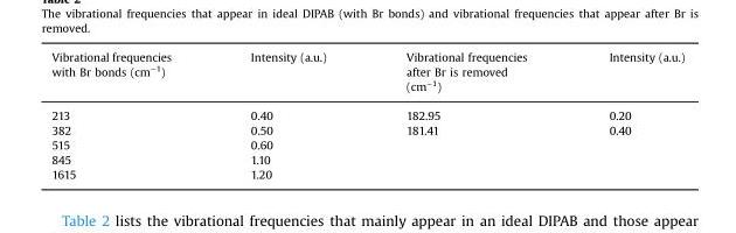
<table><thead><tr><td>Vibrational frequencies with Br bonds (cm<sup>−1</sup>)</td><td>Intensity (a.u.)</td><td>Vibrational frequencies after Br is removed (cm<sup>−1</sup>)</td><td>Intensity (a.u.)</td></tr></thead><tbody><tr><td>213</td><td>0.40</td><td>182.95</td><td>0.20</td></tr><tr><td>382</td><td>0.50</td><td>181.41</td><td>0.40</td></tr><tr><td>515</td><td>0.60</td><td></td><td></td></tr><tr><td>845</td><td>1.10</td><td></td><td></td></tr><tr><td>1615</td><td>1.20</td><td></td><td></td></tr></tbody></table>